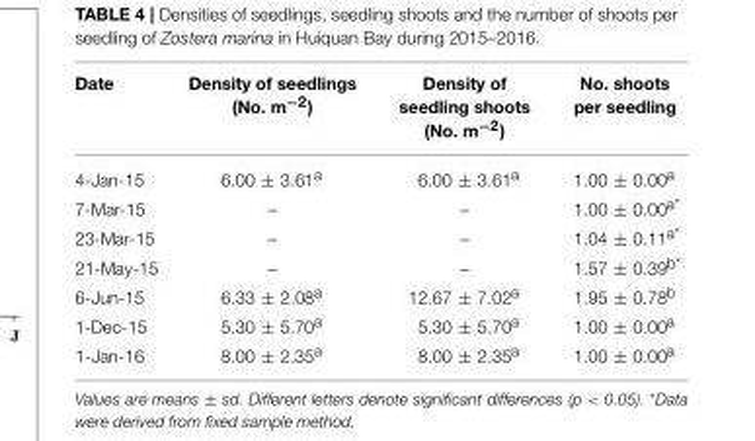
<table><thead><tr><td>Date</td><td>Density of seedlings (No. m<sup>−2</sup>)</td><td>Density of seedling shoots (No. m<sup>−2</sup>)</td><td>No. shoots per seedling</td></tr></thead><tbody><tr><td>4-Jan-15</td><td>6.00 ± 3.61<sup>a</sup></td><td>6.00 ± 3.61<sup>a</sup></td><td>1.00 ± 0.00<sup>a</sup></td></tr><tr><td>7-Mar-15</td><td>–</td><td>–</td><td>1.00 ± 0.00<sup>a*</sup></td></tr><tr><td>23-Mar-15</td><td>–</td><td>–</td><td>1.04 ± 0.11<sup>a*</sup></td></tr><tr><td>21-May-15</td><td>–</td><td>–</td><td>1.57 ± 0.39<sup>b*</sup></td></tr><tr><td>6-Jun-15</td><td>6.33 ± 2.08<sup>a</sup></td><td>12.67 ± 7.02<sup>a</sup></td><td>1.95 ± 0.78<sup>b</sup></td></tr><tr><td>1-Dec-15</td><td>5.30 ± 5.70<sup>a</sup></td><td>5.30 ± 5.70<sup>a</sup></td><td>1.00 ± 0.00<sup>a</sup></td></tr><tr><td>1-Jan-16</td><td>8.00 ± 2.35<sup>a</sup></td><td>8.00 ± 2.35<sup>a</sup></td><td>1.00 ± 0.00<sup>a</sup></td></tr></tbody></table>